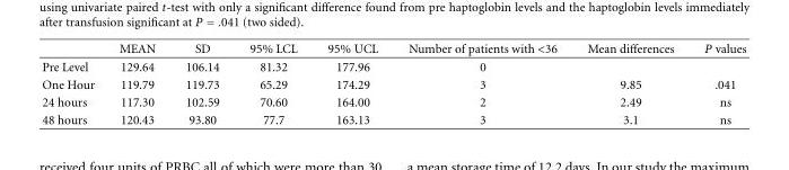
<table><thead><tr><td></td><td>MEAN</td><td>SD</td><td>95% LCL</td><td>95% UCL</td><td>Number of patients with &lt;36</td><td>Mean differences</td><td>P values</td></tr></thead><tbody><tr><td>Pre Level</td><td>129.64</td><td>106.14</td><td>81.32</td><td>177.96</td><td>0</td><td></td><td></td></tr><tr><td>One Hour</td><td>119.79</td><td>119.73</td><td>65.29</td><td>174.29</td><td>3</td><td>9.85</td><td>.041</td></tr><tr><td>24 hours</td><td>117.30</td><td>102.59</td><td>70.60</td><td>164.00</td><td>2</td><td>2.49</td><td>ns</td></tr><tr><td>48 hours</td><td>120.43</td><td>93.80</td><td>77.7</td><td>163.13</td><td>3</td><td>3.1</td><td>ns</td></tr></tbody></table>